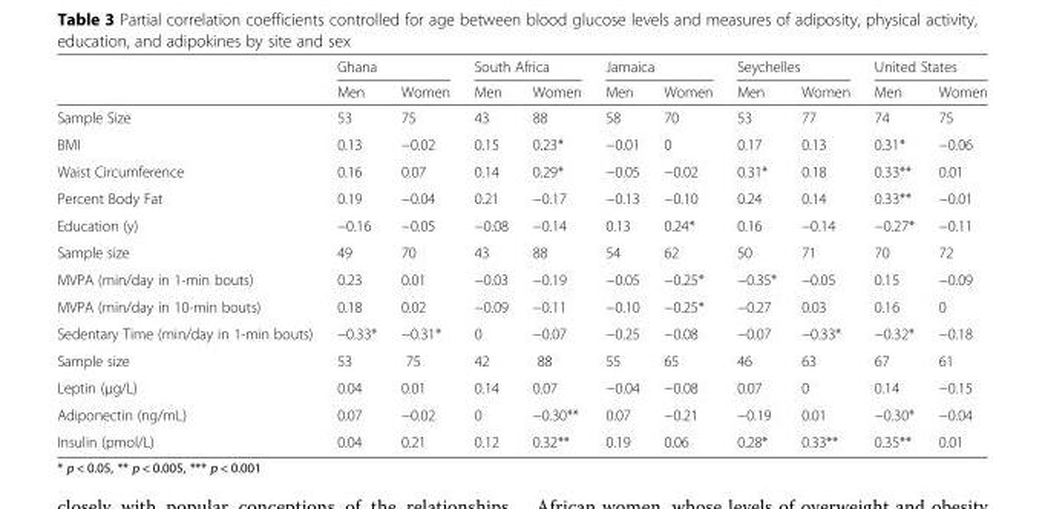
<table><thead><tr><td rowspan="2"></td><td colspan="2">Ghana</td><td colspan="2">South Africa</td><td colspan="2">Jamaica</td><td colspan="2">Seychelles</td><td colspan="2">United States</td></tr><tr><td>Men</td><td>Women</td><td>Men</td><td>Women</td><td>Men</td><td>Women</td><td>Men</td><td>Women</td><td>Men</td><td>Women</td></tr></thead><tbody><tr><td>Sample Size</td><td>53</td><td>75</td><td>43</td><td>88</td><td>58</td><td>70</td><td>53</td><td>77</td><td>74</td><td>75</td></tr><tr><td>BMI</td><td>0.13</td><td>−0.02</td><td>0.15</td><td>0.23*</td><td>−0.01</td><td>0</td><td>0.17</td><td>0.13</td><td>0.31*</td><td>−0.06</td></tr><tr><td>Waist Circumference</td><td>0.16</td><td>0.07</td><td>0.14</td><td>0.29*</td><td>−0.05</td><td>−0.02</td><td>0.31*</td><td>0.18</td><td>0.33**</td><td>0.01</td></tr><tr><td>Percent Body Fat</td><td>0.19</td><td>−0.04</td><td>0.21</td><td>−0.17</td><td>−0.13</td><td>−0.10</td><td>0.24</td><td>0.14</td><td>0.33**</td><td>−0.01</td></tr><tr><td>Education (y)</td><td>−0.16</td><td>−0.05</td><td>−0.08</td><td>−0.14</td><td>0.13</td><td>0.24*</td><td>0.16</td><td>−0.14</td><td>−0.27*</td><td>−0.11</td></tr><tr><td>Sample size</td><td>49</td><td>70</td><td>43</td><td>88</td><td>54</td><td>62</td><td>50</td><td>71</td><td>70</td><td>72</td></tr><tr><td>MVPA (min/day in 1-min bouts)</td><td>0.23</td><td>0.01</td><td>−0.03</td><td>−0.19</td><td>−0.05</td><td>−0.25*</td><td>−0.35*</td><td>−0.05</td><td>0.15</td><td>−0.09</td></tr><tr><td>MVPA (min/day in 10-min bouts)</td><td>0.18</td><td>0.02</td><td>−0.09</td><td>−0.11</td><td>−0.10</td><td>−0.25*</td><td>−0.27</td><td>0.03</td><td>0.16</td><td>0</td></tr><tr><td>Sedentary Time (min/day in 1-min bouts)</td><td>−0.33*</td><td>−0.31*</td><td>0</td><td>−0.07</td><td>−0.25</td><td>−0.08</td><td>−0.07</td><td>−0.33*</td><td>−0.32*</td><td>−0.18</td></tr><tr><td>Sample size</td><td>53</td><td>75</td><td>42</td><td>88</td><td>55</td><td>65</td><td>46</td><td>63</td><td>67</td><td>61</td></tr><tr><td>Leptin (μg/L)</td><td>0.04</td><td>0.01</td><td>0.14</td><td>0.07</td><td>−0.04</td><td>−0.08</td><td>0.07</td><td>0</td><td>0.14</td><td>−0.15</td></tr><tr><td>Adiponectin (ng/mL)</td><td>0.07</td><td>−0.02</td><td>0</td><td>−0.30**</td><td>0.07</td><td>−0.21</td><td>−0.19</td><td>0.01</td><td>−0.30*</td><td>−0.04</td></tr><tr><td>Insulin (pmol/L)</td><td>0.04</td><td>0.21</td><td>0.12</td><td>0.32**</td><td>0.19</td><td>0.06</td><td>0.28*</td><td>0.33**</td><td>0.35**</td><td>0.01</td></tr></tbody></table>